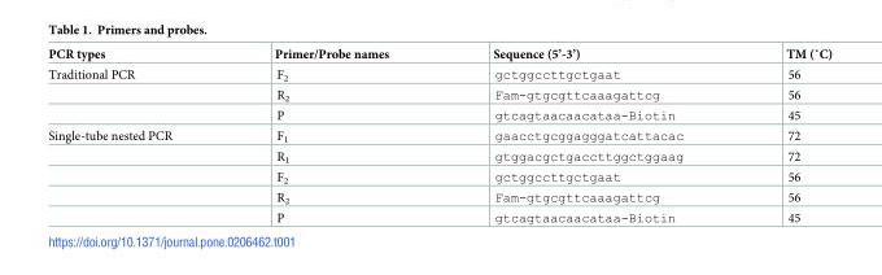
<table><thead><tr><td>PCR types</td><td>Primer/Probe names</td><td>Sequence (5’-3’)</td><td>TM (˚C)</td></tr></thead><tbody><tr><td rowspan="3">Traditional PCR</td><td>F<sub>2</sub></td><td>gctggccttgctgaat</td><td>56</td></tr><tr><td>R<sub>2</sub></td><td>Fam-gtgcgttcaaagattcg</td><td>56</td></tr><tr><td>P</td><td>gtcagtaacaacataa-Biotin</td><td>45</td></tr><tr><td rowspan="5">Single-tube nested PCR</td><td>F<sub>1</sub></td><td>gaacctgcggagggatcattacac</td><td>72</td></tr><tr><td>R<sub>1</sub></td><td>gtggacgctgaccttggctggaag</td><td>72</td></tr><tr><td>F<sub>2</sub></td><td>gctggccttgctgaat</td><td>56</td></tr><tr><td>R<sub>2</sub></td><td>Fam-gtgcgttcaaagattcg</td><td>56</td></tr><tr><td>P</td><td>gtcagtaacaacataa-Biotin</td><td>45</td></tr></tbody></table>